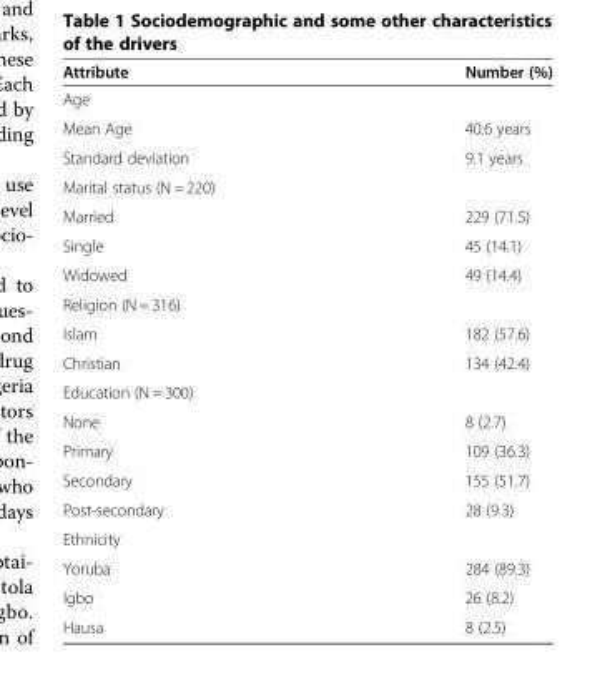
<table><thead><tr><td>Attribute</td><td>Number (%)</td></tr></thead><tbody><tr><td colspan="2">Age</td></tr><tr><td>Mean Age</td><td>40.6 years</td></tr><tr><td>Standard deviation</td><td>9.1 years</td></tr><tr><td colspan="2">Marital status (N = 220)</td></tr><tr><td>Married</td><td>229 (71.5)</td></tr><tr><td>Single</td><td>45 (14.1)</td></tr><tr><td>Widowed</td><td>49 (14.4)</td></tr><tr><td colspan="2">Religion (N = 316)</td></tr><tr><td>Islam</td><td>182 (57.6)</td></tr><tr><td>Christian</td><td>134 (42.4)</td></tr><tr><td colspan="2">Education (N = 300)</td></tr><tr><td>None</td><td>8 (2.7)</td></tr><tr><td>Primary</td><td>109 (36.3)</td></tr><tr><td>Secondary</td><td>155 (51.7)</td></tr><tr><td>Post-secondary</td><td>28 (9.3)</td></tr><tr><td colspan="2">Ethnicity</td></tr><tr><td>Yoruba</td><td>284 (89.3)</td></tr><tr><td>Igbo</td><td>26 (8.2)</td></tr><tr><td>Hausa</td><td>8 (2.5)</td></tr></tbody></table>